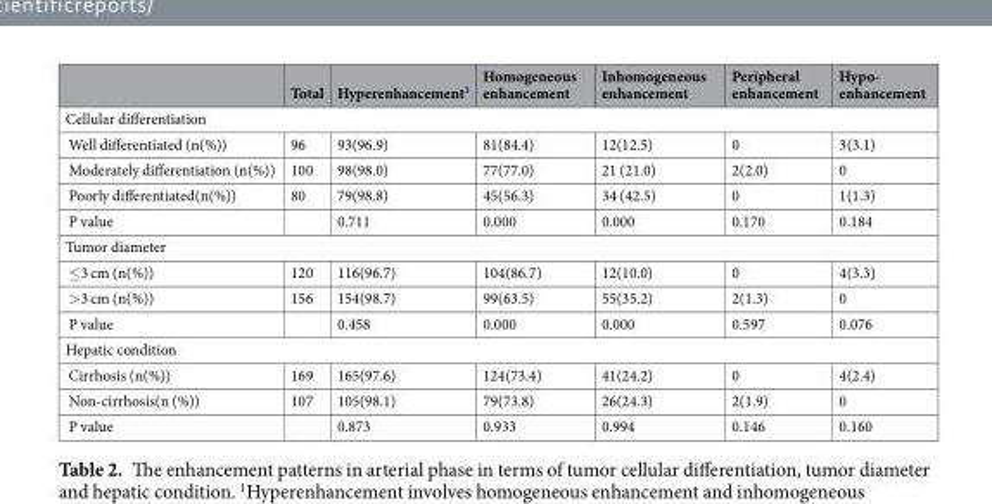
<table><thead><tr><td></td><td>Total</td><td>Hyperenhancement<sup>1</sup></td><td>Homogeneous enhancement</td><td>Inhomogeneous enhancement</td><td>Peripheral enhancement</td><td>Hypo- enhancement</td></tr></thead><tbody><tr><td colspan="7">Cellular differentiation</td></tr><tr><td>Well differentiated (n(%))</td><td>96</td><td>93(96.9)</td><td>81(84.4)</td><td>12(12.5)</td><td>0</td><td>3(3.1)</td></tr><tr><td>Moderately differentiation (n(%))</td><td>100</td><td>98(98.0)</td><td>77(77.0)</td><td>21 (21.0)</td><td>2(2.0)</td><td>0</td></tr><tr><td>Poorly differentiated(n(%))</td><td>80</td><td>79(98.8)</td><td>45(56.3)</td><td>34 (42.5)</td><td>0</td><td>1(1.3)</td></tr><tr><td>P value</td><td></td><td>0.711</td><td>0.000</td><td>0.000</td><td>0.170</td><td>0.184</td></tr><tr><td colspan="7">Tumor diameter</td></tr><tr><td>≤3 cm (n(%))</td><td>120</td><td>116(96.7)</td><td>104(86.7)</td><td>12(10.0)</td><td>0</td><td>4(3.3)</td></tr><tr><td>&gt;3 cm (n(%))</td><td>156</td><td>154(98.7)</td><td>99(63.5)</td><td>55(35.2)</td><td>2(1.3)</td><td>0</td></tr><tr><td>P value</td><td></td><td>0.458</td><td>0.000</td><td>0.000</td><td>0.597</td><td>0.076</td></tr><tr><td colspan="7">Hepatic condition</td></tr><tr><td>Cirrhosis (n(%))</td><td>169</td><td>165(97.6)</td><td>124(73.4)</td><td>41(24.2)</td><td>0</td><td>4(2.4)</td></tr><tr><td>Non-cirrhosis(n (%))</td><td>107</td><td>105(98.1)</td><td>79(73.8)</td><td>26(24.3)</td><td>2(1.9)</td><td>0</td></tr><tr><td>P value</td><td></td><td>0.873</td><td>0.933</td><td>0.994</td><td>0.146</td><td>0.160</td></tr></tbody></table>